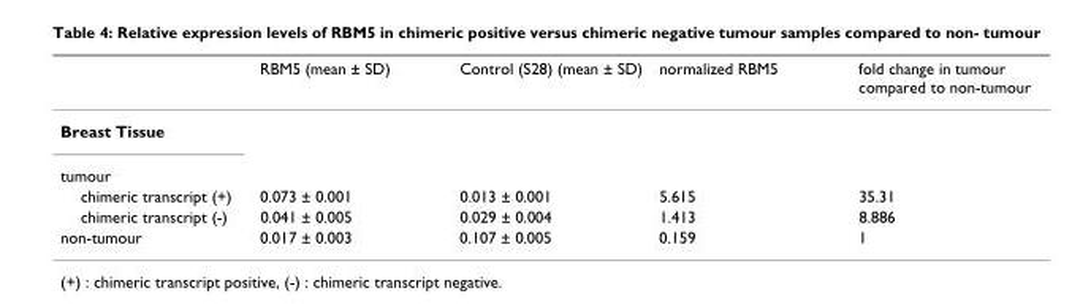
<table><thead><tr><td></td><td>RBM5 (mean ± SD)</td><td>Control (S28) (mean ± SD)</td><td>normalized RBM5</td><td>fold change in tumour compared to non-tumour</td></tr></thead><tbody><tr><td colspan="5">Breast Tissue</td></tr><tr><td colspan="5">tumour</td></tr><tr><td>chimeric transcript (+)</td><td>0.073 ± 0.001</td><td>0.013 ± 0.001</td><td>5.615</td><td>35.31</td></tr><tr><td>chimeric transcript (-)</td><td>0.041 ± 0.005</td><td>0.029 ± 0.004</td><td>1.413</td><td>8.886</td></tr><tr><td>non-tumour</td><td>0.017 ± 0.003</td><td>0.107 ± 0.005</td><td>0.159</td><td>1</td></tr></tbody></table>